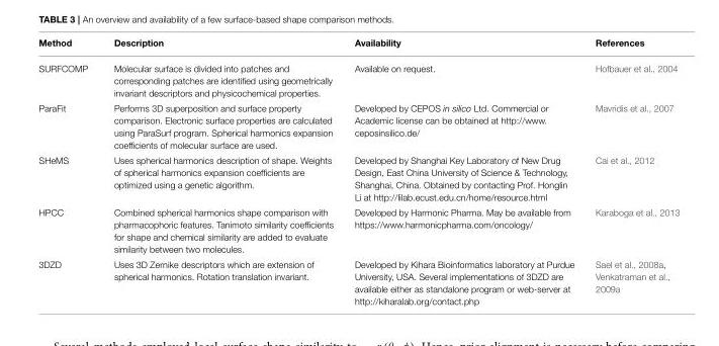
<table><thead><tr><td>Method</td><td>Description</td><td>Availability</td><td>References</td></tr></thead><tbody><tr><td>SURFCOMP</td><td>Molecular surface is divided into patches and corresponding patches are identified using geometrically invariant descriptors and physicochemical properties.</td><td>Available on request.</td><td>Hofbauer et al., 2004</td></tr><tr><td>ParaFit</td><td>Performs 3D superposition and surface property comparison. Electronic surface properties are calculated using ParaSurf program. Spherical harmonics expansion coefficients of molecular surface are used.</td><td>Developed by CEPOS in silico Ltd. Commercial or Academic license can be obtained at http://www. ceposinsilico.de/</td><td>Mavridis et al., 2007</td></tr><tr><td>SHeMS</td><td>Uses spherical harmonics description of shape. Weights of spherical harmonics expansion coefficients are optimized using a genetic algorithm.</td><td>Developed by Shanghai Key Laboratory of New Drug Design, East China University of Science &amp; Technology, Shanghai, China. Obtained by contacting Prof. Honglin Li at http://lilab.ecust.edu.cn/home/resource.html</td><td>Cai et al., 2012</td></tr><tr><td>HPCC</td><td>Combined spherical harmonics shape comparison with pharmacophoric features. Tanimoto similarity coefficients for shape and chemical similarity are added to evaluate similarity between two molecules.</td><td>Developed by Harmonic Pharma. May be available from https://www.harmonicpharma.com/oncology/</td><td>Karaboga et al., 2013</td></tr><tr><td>3DZD</td><td>Uses 3D Zernike descriptors which are extension of spherical harmonics. Rotation translation invariant.</td><td>Developed by Kihara Bioinformatics laboratory at Purdue University, USA. Several implementations of 3DZD are available either as standalone program or web-server at http://kiharalab.org/contact.php</td><td>Sael et al., 2008a, Venkatraman et al., 2009a</td></tr></tbody></table>